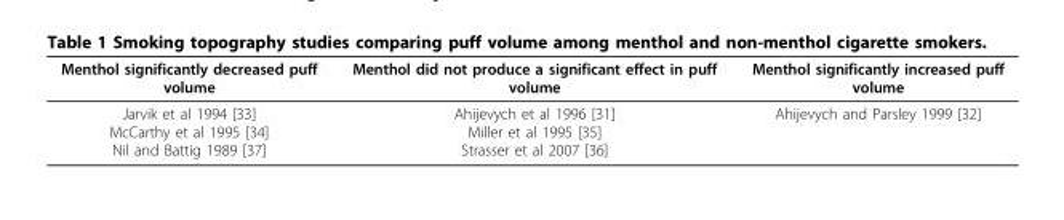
<table><thead><tr><td>Menthol significantly decreased puff volume</td><td>Menthol did not produce a significant effect in puff volume</td><td>Menthol significantly increased puff volume</td></tr></thead><tbody><tr><td>Jarvik et al 1994 [33] McCarthy et al 1995 [34] Nil and Battig 1989 [37]</td><td>Ahijevych et al 1996 [31] Miller et al 1995 [35] Strasser et al 2007 [36]</td><td>Ahijevych and Parsley 1999 [32]</td></tr></tbody></table>